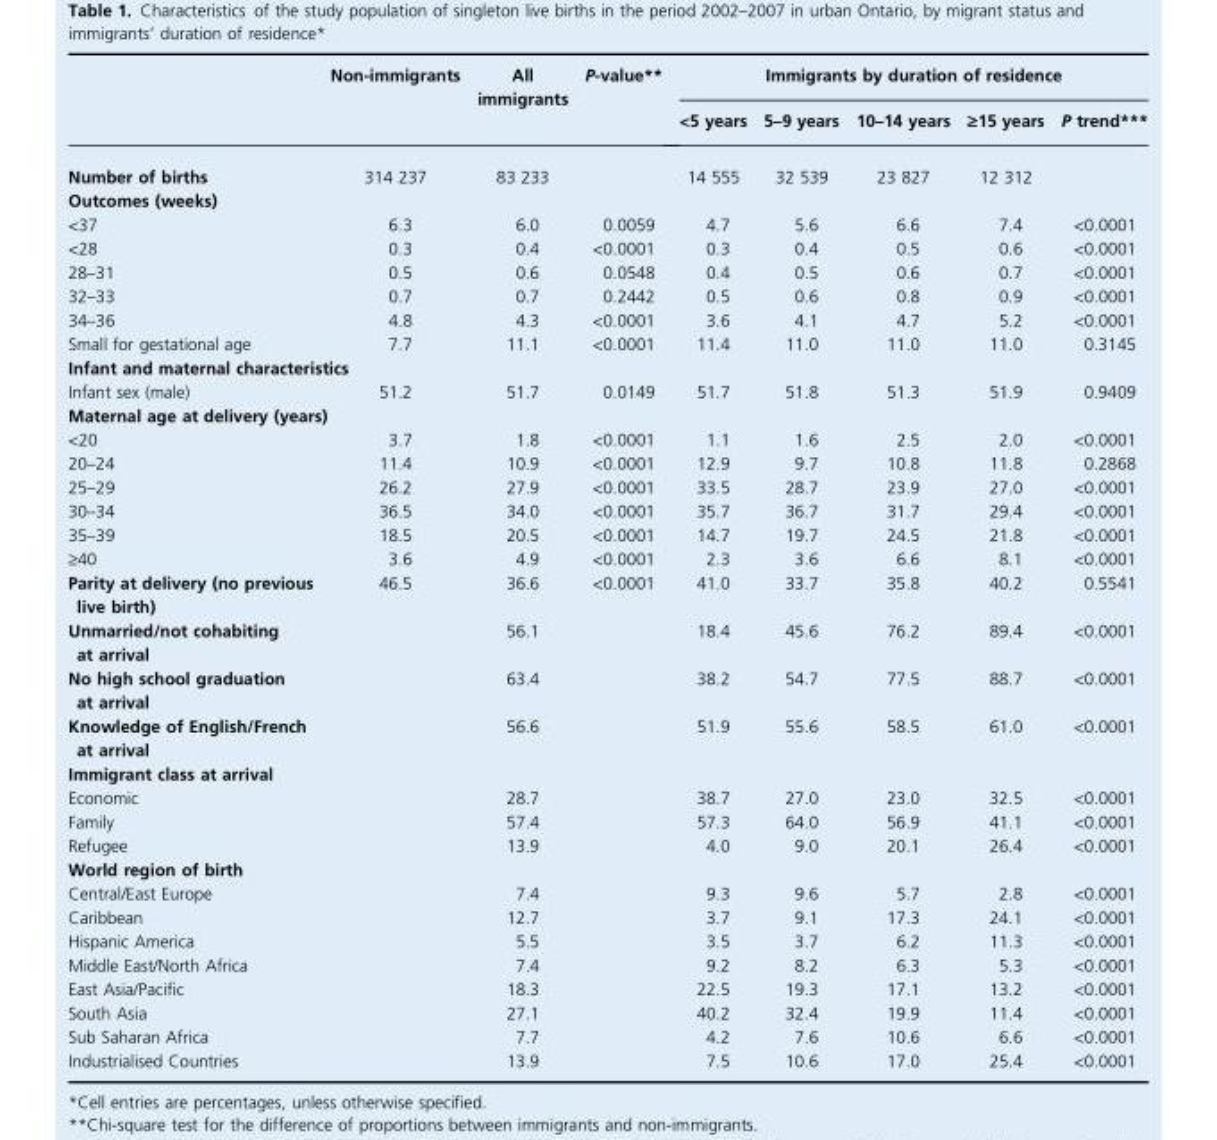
<table><thead><tr><td rowspan="2"></td><td rowspan="2">Non-immigrants</td><td rowspan="2">All immigrants</td><td rowspan="2">P-value**</td><td colspan="5">Immigrants by duration of residence</td></tr><tr><td>&lt;5 years</td><td>5–9 years</td><td>10–14 years</td><td>‡15 years</td><td>P trend***</td></tr></thead><tbody><tr><td>Number of births</td><td>314 237</td><td>83 233</td><td></td><td>14 555</td><td>32 539</td><td>23 827</td><td>12 312</td><td></td></tr><tr><td colspan="9">Outcomes (weeks)</td></tr><tr><td>&lt;37</td><td>6.3</td><td>6.0</td><td>0.0059</td><td>4.7</td><td>5.6</td><td>6.6</td><td>7.4</td><td>&lt;0.0001</td></tr><tr><td>&lt;28</td><td>0.3</td><td>0.4</td><td>&lt;0.0001</td><td>0.3</td><td>0.4</td><td>0.5</td><td>0.6</td><td>&lt;0.0001</td></tr><tr><td>28–31</td><td>0.5</td><td>0.6</td><td>0.0548</td><td>0.4</td><td>0.5</td><td>0.6</td><td>0.7</td><td>&lt;0.0001</td></tr><tr><td>32–33</td><td>0.7</td><td>0.7</td><td>0.2442</td><td>0.5</td><td>0.6</td><td>0.8</td><td>0.9</td><td>&lt;0.0001</td></tr><tr><td>34–36</td><td>4.8</td><td>4.3</td><td>&lt;0.0001</td><td>3.6</td><td>4.1</td><td>4.7</td><td>5.2</td><td>&lt;0.0001</td></tr><tr><td>Small for gestational age</td><td>7.7</td><td>11.1</td><td>&lt;0.0001</td><td>11.4</td><td>11.0</td><td>11.0</td><td>11.0</td><td>0.3145</td></tr><tr><td colspan="9">Infant and maternal characteristics</td></tr><tr><td>Infant sex (male)</td><td>51.2</td><td>51.7</td><td>0.0149</td><td>51.7</td><td>51.8</td><td>51.3</td><td>51.9</td><td>0.9409</td></tr><tr><td colspan="9">Maternal age at delivery (years)</td></tr><tr><td>&lt;20</td><td>3.7</td><td>1.8</td><td>&lt;0.0001</td><td>1.1</td><td>1.6</td><td>2.5</td><td>2.0</td><td>&lt;0.0001</td></tr><tr><td>20–24</td><td>11.4</td><td>10.9</td><td>&lt;0.0001</td><td>12.9</td><td>9.7</td><td>10.8</td><td>11.8</td><td>0.2868</td></tr><tr><td>25–29</td><td>26.2</td><td>27.9</td><td>&lt;0.0001</td><td>33.5</td><td>28.7</td><td>23.9</td><td>27.0</td><td>&lt;0.0001</td></tr><tr><td>30–34</td><td>36.5</td><td>34.0</td><td>&lt;0.0001</td><td>35.7</td><td>36.7</td><td>31.7</td><td>29.4</td><td>&lt;0.0001</td></tr><tr><td>35–39</td><td>18.5</td><td>20.5</td><td>&lt;0.0001</td><td>14.7</td><td>19.7</td><td>24.5</td><td>21.8</td><td>&lt;0.0001</td></tr><tr><td>‡40</td><td>3.6</td><td>4.9</td><td>&lt;0.0001</td><td>2.3</td><td>3.6</td><td>6.6</td><td>8.1</td><td>&lt;0.0001</td></tr><tr><td>Parity at delivery (no previous live birth)</td><td>46.5</td><td>36.6</td><td>&lt;0.0001</td><td>41.0</td><td>33.7</td><td>35.8</td><td>40.2</td><td>0.5541</td></tr><tr><td>Unmarried/not cohabiting at arrival</td><td></td><td>56.1</td><td></td><td>18.4</td><td>45.6</td><td>76.2</td><td>89.4</td><td>&lt;0.0001</td></tr><tr><td>No high school graduation at arrival</td><td></td><td>63.4</td><td></td><td>38.2</td><td>54.7</td><td>77.5</td><td>88.7</td><td>&lt;0.0001</td></tr><tr><td>Knowledge of English/French at arrival</td><td></td><td>56.6</td><td></td><td>51.9</td><td>55.6</td><td>58.5</td><td>61.0</td><td>&lt;0.0001</td></tr><tr><td colspan="9">Immigrant class at arrival</td></tr><tr><td>Economic</td><td></td><td>28.7</td><td></td><td>38.7</td><td>27.0</td><td>23.0</td><td>32.5</td><td>&lt;0.0001</td></tr><tr><td>Family</td><td></td><td>57.4</td><td></td><td>57.3</td><td>64.0</td><td>56.9</td><td>41.1</td><td>&lt;0.0001</td></tr><tr><td>Refugee</td><td></td><td>13.9</td><td></td><td>4.0</td><td>9.0</td><td>20.1</td><td>26.4</td><td>&lt;0.0001</td></tr><tr><td colspan="9">World region of birth</td></tr><tr><td>Central/East Europe</td><td></td><td>7.4</td><td></td><td>9.3</td><td>9.6</td><td>5.7</td><td>2.8</td><td>&lt;0.0001</td></tr><tr><td>Caribbean</td><td></td><td>12.7</td><td></td><td>3.7</td><td>9.1</td><td>17.3</td><td>24.1</td><td>&lt;0.0001</td></tr><tr><td>Hispanic America</td><td></td><td>5.5</td><td></td><td>3.5</td><td>3.7</td><td>6.2</td><td>11.3</td><td>&lt;0.0001</td></tr><tr><td>Middle East/North Africa</td><td></td><td>7.4</td><td></td><td>9.2</td><td>8.2</td><td>6.3</td><td>5.3</td><td>&lt;0.0001</td></tr><tr><td>East Asia/Pacific</td><td></td><td>18.3</td><td></td><td>22.5</td><td>19.3</td><td>17.1</td><td>13.2</td><td>&lt;0.0001</td></tr><tr><td>South Asia</td><td></td><td>27.1</td><td></td><td>40.2</td><td>32.4</td><td>19.9</td><td>11.4</td><td>&lt;0.0001</td></tr><tr><td>Sub Saharan Africa</td><td></td><td>7.7</td><td></td><td>4.2</td><td>7.6</td><td>10.6</td><td>6.6</td><td>&lt;0.0001</td></tr><tr><td>Industrialised Countries</td><td></td><td>13.9</td><td></td><td>7.5</td><td>10.6</td><td>17.0</td><td>25.4</td><td>&lt;0.0001</td></tr></tbody></table>